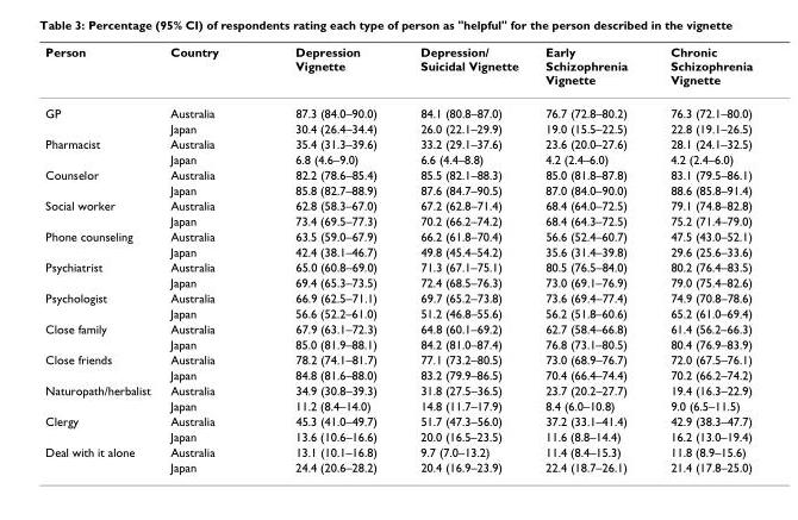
<table><thead><tr><td>Person</td><td>Country</td><td>Depression Vignette</td><td>Depression/ Suicidal Vignette</td><td>Early Schizophrenia Vignette</td><td>Chronic Schizophrenia Vignette</td></tr></thead><tbody><tr><td rowspan="2">GP</td><td>Australia</td><td>87.3 (84.0–90.0)</td><td>84.1 (80.8–87.0)</td><td>76.7 (72.8–80.2)</td><td>76.3 (72.1–80.0)</td></tr><tr><td>Japan</td><td>30.4 (26.4–34.4)</td><td>26.0 (22.1–29.9)</td><td>19.0 (15.5–22.5)</td><td>22.8 (19.1–26.5)</td></tr><tr><td rowspan="2">Pharmacist</td><td>Australia</td><td>35.4 (31.3–39.6)</td><td>33.2 (29.1–37.6)</td><td>23.6 (20.0–27.6)</td><td>28.1 (24.1–32.5)</td></tr><tr><td>Japan</td><td>6.8 (4.6–9.0)</td><td>6.6 (4.4–8.8)</td><td>4.2 (2.4–6.0)</td><td>4.2 (2.4–6.0)</td></tr><tr><td rowspan="2">Counselor</td><td>Australia</td><td>82.2 (78.6–85.4)</td><td>85.5 (82.1–88.3)</td><td>85.0 (81.8–87.8)</td><td>83.1 (79.5–86.1)</td></tr><tr><td>Japan</td><td>85.8 (82.7–88.9)</td><td>87.6 (84.7–90.5)</td><td>87.0 (84.0–90.0)</td><td>88.6 (85.8–91.4)</td></tr><tr><td rowspan="2">Social worker</td><td>Australia</td><td>62.8 (58.3–67.0)</td><td>67.2 (62.8–71.4)</td><td>68.4 (64.0–72.5)</td><td>79.1 (74.8–82.8)</td></tr><tr><td>Japan</td><td>73.4 (69.5–77.3)</td><td>70.2 (66.2–74.2)</td><td>68.4 (64.3–72.5)</td><td>75.2 (71.4–79.0)</td></tr><tr><td rowspan="2">Phone counseling</td><td>Australia</td><td>63.5 (59.0–67.9)</td><td>66.2 (61.8–70.4)</td><td>56.6 (52.4–60.7)</td><td>47.5 (43.0–52.1)</td></tr><tr><td>Japan</td><td>42.4 (38.1–46.7)</td><td>49.8 (45.4–54.2)</td><td>35.6 (31.4–39.8)</td><td>29.6 (25.6–33.6)</td></tr><tr><td rowspan="2">Psychiatrist</td><td>Australia</td><td>65.0 (60.8–69.0)</td><td>71.3 (67.1–75.1)</td><td>80.5 (76.5–84.0)</td><td>80.2 (76.4–83.5)</td></tr><tr><td>Japan</td><td>69.4 (65.3–73.5)</td><td>72.4 (68.5–76.3)</td><td>73.0 (69.1–76.9)</td><td>79.0 (75.4–82.6)</td></tr><tr><td rowspan="2">Psychologist</td><td>Australia</td><td>66.9 (62.5–71.1)</td><td>69.7 (65.2–73.8)</td><td>73.6 (69.4–77.4)</td><td>74.9 (70.8–78.6)</td></tr><tr><td>Japan</td><td>56.6 (52.2–61.0)</td><td>51.2 (46.8–55.6)</td><td>56.2 (51.8–60.6)</td><td>65.2 (61.0–69.4)</td></tr><tr><td rowspan="2">Close family</td><td>Australia</td><td>67.9 (63.1–72.3)</td><td>64.8 (60.1–69.2)</td><td>62.7 (58.4–66.8)</td><td>61.4 (56.2–66.3)</td></tr><tr><td>Japan</td><td>85.0 (81.9–88.1)</td><td>84.2 (81.0–87.4)</td><td>76.8 (73.1–80.5)</td><td>80.4 (76.9–83.9)</td></tr><tr><td rowspan="2">Close friends</td><td>Australia</td><td>78.2 (74.1–81.7)</td><td>77.1 (73.2–80.5)</td><td>73.0 (68.9–76.7)</td><td>72.0 (67.5–76.1)</td></tr><tr><td>Japan</td><td>84.8 (81.6–88.0)</td><td>83.2 (79.9–86.5)</td><td>70.4 (66.4–74.4)</td><td>70.2 (66.2–74.2)</td></tr><tr><td rowspan="2">Naturopath/herbalist</td><td>Australia</td><td>34.9 (30.8–39.3)</td><td>31.8 (27.5–36.5)</td><td>23.7 (20.2–27.7)</td><td>19.4 (16.3–22.9)</td></tr><tr><td>Japan</td><td>11.2 (8.4–14.0)</td><td>14.8 (11.7–17.9)</td><td>8.4 (6.0–10.8)</td><td>9.0 (6.5–11.5)</td></tr><tr><td rowspan="2">Clergy</td><td>Australia</td><td>45.3 (41.0–49.7)</td><td>51.7 (47.3–56.0)</td><td>37.2 (33.1–41.4)</td><td>42.9 (38.3–47.7)</td></tr><tr><td>Japan</td><td>13.6 (10.6–16.6)</td><td>20.0 (16.5–23.5)</td><td>11.6 (8.8–14.4)</td><td>16.2 (13.0–19.4)</td></tr><tr><td rowspan="2">Deal with it alone</td><td>Australia</td><td>13.1 (10.1–16.8)</td><td>9.7 (7.0–13.2)</td><td>11.4 (8.4–15.3)</td><td>11.8 (8.9–15.6)</td></tr><tr><td>Japan</td><td>24.4 (20.6–28.2)</td><td>20.4 (16.9–23.9)</td><td>22.4 (18.7–26.1)</td><td>21.4 (17.8–25.0)</td></tr></tbody></table>